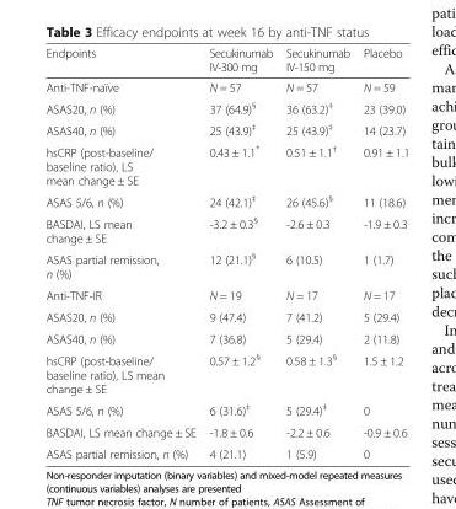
<table><thead><tr><td>Endpoints</td><td>Secukinumab IV-300 mg</td><td>Secukinumab IV-150 mg</td><td>Placebo</td></tr></thead><tbody><tr><td>Anti-TNF-naïve</td><td>N = 57</td><td>N = 57</td><td>N = 59</td></tr><tr><td>ASAS20, n (%)</td><td>37 (64.9)<sup>§</sup></td><td>36 (63.2)<sup>‡</sup></td><td>23 (39.0)</td></tr><tr><td>ASAS40, n (%)</td><td>25 (43.9)<sup>‡</sup></td><td>25 (43.9)<sup>‡</sup></td><td>14 (23.7)</td></tr><tr><td>hsCRP (post-baseline/ baseline ratio), LS mean change ± SE</td><td>0.43 ± 1.1*</td><td>0.51 ± 1.1<sup>†</sup></td><td>0.91 ± 1.1</td></tr><tr><td>ASAS 5/6, n (%)</td><td>24 (42.1)<sup>‡</sup></td><td>26 (45.6)<sup>§</sup></td><td>11 (18.6)</td></tr><tr><td>BASDAI, LS mean change ± SE</td><td>-3.2 ± 0.3<sup>§</sup></td><td>-2.6 ± 0.3</td><td>-1.9 ± 0.3</td></tr><tr><td>ASAS partial remission, n (%)</td><td>12 (21.1)<sup>§</sup></td><td>6 (10.5)</td><td>1 (1.7)</td></tr><tr><td>Anti-TNF-IR</td><td>N = 19</td><td>N = 17</td><td>N = 17</td></tr><tr><td>ASAS20, n (%)</td><td>9 (47.4)</td><td>7 (41.2)</td><td>5 (29.4)</td></tr><tr><td>ASAS40, n (%)</td><td>7 (36.8)</td><td>5 (29.4)</td><td>2 (11.8)</td></tr><tr><td>hsCRP (post-baseline/ baseline ratio), LS mean change ± SE</td><td>0.57 ± 1.2<sup>§</sup></td><td>0.58 ± 1.3<sup>§</sup></td><td>1.5 ± 1.2</td></tr><tr><td>ASAS 5/6, n (%)</td><td>6 (31.6)<sup>‡</sup></td><td>5 (29.4)<sup>‡</sup></td><td>0</td></tr><tr><td>BASDAI, LS mean change ± SE</td><td>-1.8 ± 0.6</td><td>-2.2 ± 0.6</td><td>-0.9 ± 0.6</td></tr><tr><td>ASAS partial remission, n (%)</td><td>4 (21.1)</td><td>1 (5.9)</td><td>0</td></tr></tbody></table>